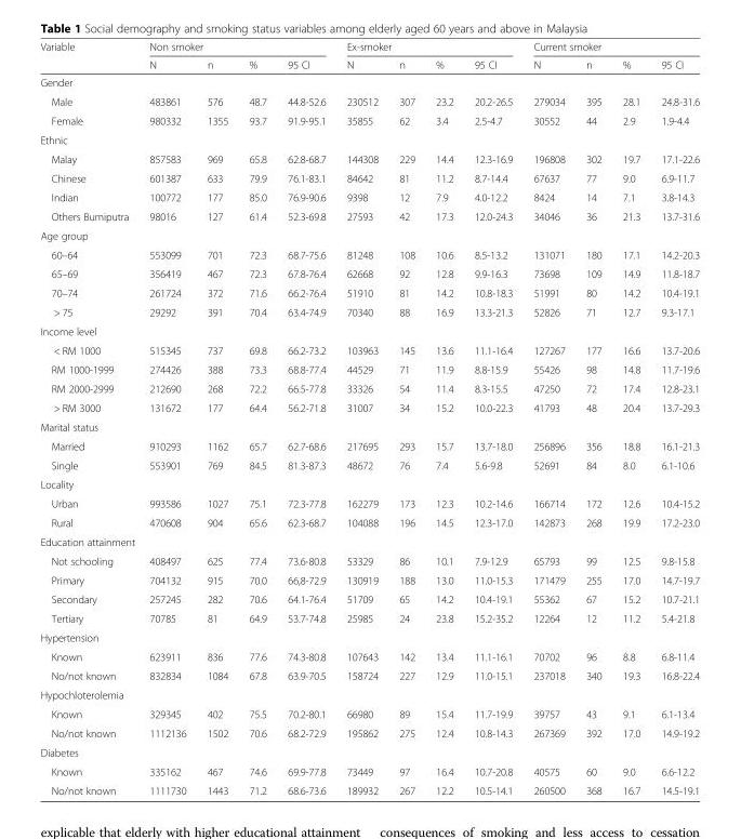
<table><thead><tr><td rowspan="2">Variable</td><td colspan="4">Non smoker</td><td colspan="4">Ex-smoker</td><td colspan="4">Current smoker</td></tr><tr><td>N</td><td>n</td><td>%</td><td>95 CI</td><td>N</td><td>n</td><td>%</td><td>95 CI</td><td>N</td><td>n</td><td>%</td><td>95 CI</td></tr></thead><tbody><tr><td colspan="13">Gender</td></tr><tr><td>Male</td><td>483861</td><td>576</td><td>48.7</td><td>44.8-52.6</td><td>230512</td><td>307</td><td>23.2</td><td>20.2-26.5</td><td>279034</td><td>395</td><td>28.1</td><td>24.8-31.6</td></tr><tr><td>Female</td><td>980332</td><td>1355</td><td>93.7</td><td>91.9-95.1</td><td>35855</td><td>62</td><td>3.4</td><td>2.5-4.7</td><td>30552</td><td>44</td><td>2.9</td><td>1.9-4.4</td></tr><tr><td colspan="13">Ethnic</td></tr><tr><td>Malay</td><td>857583</td><td>969</td><td>65.8</td><td>62.8-68.7</td><td>144308</td><td>229</td><td>14.4</td><td>12.3-16.9</td><td>196808</td><td>302</td><td>19.7</td><td>17.1-22.6</td></tr><tr><td>Chinese</td><td>601387</td><td>633</td><td>79.9</td><td>76.1-83.1</td><td>84642</td><td>81</td><td>11.2</td><td>8.7-14.4</td><td>67637</td><td>77</td><td>9.0</td><td>6.9-11.7</td></tr><tr><td>Indian</td><td>100772</td><td>177</td><td>85.0</td><td>76.9-90.6</td><td>9398</td><td>12</td><td>7.9</td><td>4.0-12.2</td><td>8424</td><td>14</td><td>7.1</td><td>3.8-14.3</td></tr><tr><td>Others Bumiputra</td><td>98016</td><td>127</td><td>61.4</td><td>52.3-69.8</td><td>27593</td><td>42</td><td>17.3</td><td>12.0-24.3</td><td>34046</td><td>36</td><td>21.3</td><td>13.7-31.6</td></tr><tr><td colspan="13">Age group</td></tr><tr><td>60–64</td><td>553099</td><td>701</td><td>72.3</td><td>68.7-75.6</td><td>81248</td><td>108</td><td>10.6</td><td>8.5-13.2</td><td>131071</td><td>180</td><td>17.1</td><td>14.2-20.3</td></tr><tr><td>65–69</td><td>356419</td><td>467</td><td>72.3</td><td>67.8-76.4</td><td>62668</td><td>92</td><td>12.8</td><td>9.9-16.3</td><td>73698</td><td>109</td><td>14.9</td><td>11.8-18.7</td></tr><tr><td>70–74</td><td>261724</td><td>372</td><td>71.6</td><td>66.2-76.4</td><td>51910</td><td>81</td><td>14.2</td><td>10.8-18.3</td><td>51991</td><td>80</td><td>14.2</td><td>10.4-19.1</td></tr><tr><td>&gt; 75</td><td>29292</td><td>391</td><td>70.4</td><td>63.4-74.9</td><td>70340</td><td>88</td><td>16.9</td><td>13.3-21.3</td><td>52826</td><td>71</td><td>12.7</td><td>9.3-17.1</td></tr><tr><td colspan="13">Income level</td></tr><tr><td>&lt; RM 1000</td><td>515345</td><td>737</td><td>69.8</td><td>66.2-73.2</td><td>103963</td><td>145</td><td>13.6</td><td>11.1-16.4</td><td>127267</td><td>177</td><td>16.6</td><td>13.7-20.6</td></tr><tr><td>RM 1000-1999</td><td>274426</td><td>388</td><td>73.3</td><td>68.8-77.4</td><td>44529</td><td>71</td><td>11.9</td><td>8.8-15.9</td><td>55426</td><td>98</td><td>14.8</td><td>11.7-19.6</td></tr><tr><td>RM 2000-2999</td><td>212690</td><td>268</td><td>72.2</td><td>66.5-77.8</td><td>33326</td><td>54</td><td>11.4</td><td>8.3-15.5</td><td>47250</td><td>72</td><td>17.4</td><td>12.8-23.1</td></tr><tr><td>&gt; RM 3000</td><td>131672</td><td>177</td><td>64.4</td><td>56.2-71.8</td><td>31007</td><td>34</td><td>15.2</td><td>10.0-22.3</td><td>41793</td><td>48</td><td>20.4</td><td>13.7-29.3</td></tr><tr><td colspan="13">Marital status</td></tr><tr><td>Married</td><td>910293</td><td>1162</td><td>65.7</td><td>62.7-68.6</td><td>217695</td><td>293</td><td>15.7</td><td>13.7-18.0</td><td>256896</td><td>356</td><td>18.8</td><td>16.1-21.3</td></tr><tr><td>Single</td><td>553901</td><td>769</td><td>84.5</td><td>81.3-87.3</td><td>48672</td><td>76</td><td>7.4</td><td>5.6-9.8</td><td>52691</td><td>84</td><td>8.0</td><td>6.1-10.6</td></tr><tr><td colspan="13">Locality</td></tr><tr><td>Urban</td><td>993586</td><td>1027</td><td>75.1</td><td>72.3-77.8</td><td>162279</td><td>173</td><td>12.3</td><td>10.2-14.6</td><td>166714</td><td>172</td><td>12.6</td><td>10.4-15.2</td></tr><tr><td>Rural</td><td>470608</td><td>904</td><td>65.6</td><td>62.3-68.7</td><td>104088</td><td>196</td><td>14.5</td><td>12.3-17.0</td><td>142873</td><td>268</td><td>19.9</td><td>17.2-23.0</td></tr><tr><td colspan="13">Education attainment</td></tr><tr><td>Not schooling</td><td>408497</td><td>625</td><td>77.4</td><td>73.6-80.8</td><td>53329</td><td>86</td><td>10.1</td><td>7.9-12.9</td><td>65793</td><td>99</td><td>12.5</td><td>9.8-15.8</td></tr><tr><td>Primary</td><td>704132</td><td>915</td><td>70.0</td><td>66,8-72.9</td><td>130919</td><td>188</td><td>13.0</td><td>11.0-15.3</td><td>171479</td><td>255</td><td>17.0</td><td>14.7-19.7</td></tr><tr><td>Secondary</td><td>257245</td><td>282</td><td>70.6</td><td>64.1-76.4</td><td>51709</td><td>65</td><td>14.2</td><td>10.4-19.1</td><td>55362</td><td>67</td><td>15.2</td><td>10.7-21.1</td></tr><tr><td>Tertiary</td><td>70785</td><td>81</td><td>64.9</td><td>53.7-74.8</td><td>25985</td><td>24</td><td>23.8</td><td>15.2-35.2</td><td>12264</td><td>12</td><td>11.2</td><td>5.4-21.8</td></tr><tr><td colspan="13">Hypertension</td></tr><tr><td>Known</td><td>623911</td><td>836</td><td>77.6</td><td>74.3-80.8</td><td>107643</td><td>142</td><td>13.4</td><td>11.1-16.1</td><td>70702</td><td>96</td><td>8.8</td><td>6.8-11.4</td></tr><tr><td>No/not known</td><td>832834</td><td>1084</td><td>67.8</td><td>63.9-70.5</td><td>158724</td><td>227</td><td>12.9</td><td>11.0-15.1</td><td>237018</td><td>340</td><td>19.3</td><td>16.8-22.4</td></tr><tr><td colspan="13">Hypochloterolemia</td></tr><tr><td>Known</td><td>329345</td><td>402</td><td>75.5</td><td>70.2-80.1</td><td>66980</td><td>89</td><td>15.4</td><td>11.7-19.9</td><td>39757</td><td>43</td><td>9.1</td><td>6.1-13.4</td></tr><tr><td>No/not known</td><td>1112136</td><td>1502</td><td>70.6</td><td>68.2-72.9</td><td>195862</td><td>275</td><td>12.4</td><td>10.8-14.3</td><td>267369</td><td>392</td><td>17.0</td><td>14.9-19.2</td></tr><tr><td colspan="13">Diabetes</td></tr><tr><td>Known</td><td>335162</td><td>467</td><td>74.6</td><td>69.9-77.8</td><td>73449</td><td>97</td><td>16.4</td><td>10.7-20.8</td><td>40575</td><td>60</td><td>9.0</td><td>6.6-12.2</td></tr><tr><td>No/not known</td><td>1111730</td><td>1443</td><td>71.2</td><td>68.6-73.6</td><td>189932</td><td>267</td><td>12.2</td><td>10.5-14.1</td><td>260500</td><td>368</td><td>16.7</td><td>14.5-19.1</td></tr></tbody></table>